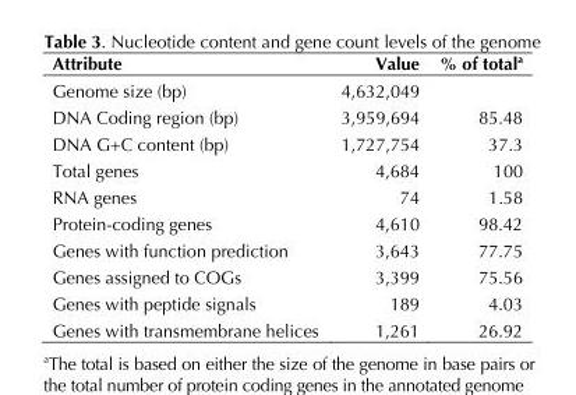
<table><thead><tr><td>Attribute</td><td>Value</td><td>% of total<sup>a</sup></td></tr></thead><tbody><tr><td>Genome size (bp)</td><td>4,632,049</td><td></td></tr><tr><td>DNA Coding region (bp)</td><td>3,959,694</td><td>85.48</td></tr><tr><td>DNA G+C content (bp)</td><td>1,727,754</td><td>37.3</td></tr><tr><td>Total genes</td><td>4,684</td><td>100</td></tr><tr><td>RNA genes</td><td>74</td><td>1.58</td></tr><tr><td>Protein-coding genes</td><td>4,610</td><td>98.42</td></tr><tr><td>Genes with function prediction</td><td>3,643</td><td>77.75</td></tr><tr><td>Genes assigned to COGs</td><td>3,399</td><td>75.56</td></tr><tr><td>Genes with peptide signals</td><td>189</td><td>4.03</td></tr><tr><td>Genes with transmembrane helices</td><td>1,261</td><td>26.92</td></tr></tbody></table>